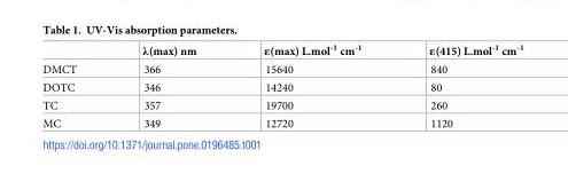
<table><thead><tr><td></td><td>λ(max) nm</td><td>ε(max) L.mol<sup>-1</sup> cm<sup>-1</sup></td><td>ε(415) L.mol<sup>-1</sup> cm<sup>-1</sup></td></tr></thead><tbody><tr><td>DMCT</td><td>366</td><td>15640</td><td>840</td></tr><tr><td>DOTC</td><td>346</td><td>14240</td><td>80</td></tr><tr><td>TC</td><td>357</td><td>19700</td><td>260</td></tr><tr><td>MC</td><td>349</td><td>12720</td><td>1120</td></tr></tbody></table>